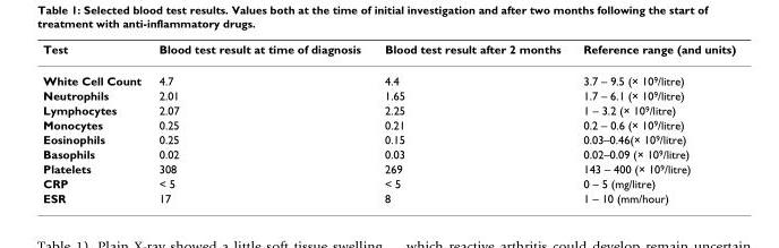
<table><thead><tr><td>Test</td><td>Blood test result at time of diagnosis</td><td>Blood test result after 2 months</td><td>Reference range (and units)</td></tr></thead><tbody><tr><td>White Cell Count</td><td>4.7</td><td>4.4</td><td>3.7 – 9.5 (× 10<sup>9</sup>/litre)</td></tr><tr><td>Neutrophils</td><td>2.01</td><td>1.65</td><td>1.7 – 6.1 (× 10<sup>9</sup>/litre)</td></tr><tr><td>Lymphocytes</td><td>2.07</td><td>2.25</td><td>1 – 3.2 (× 10<sup>9</sup>/litre)</td></tr><tr><td>Monocytes</td><td>0.25</td><td>0.21</td><td>0.2 – 0.6 (× 10<sup>9</sup>/litre)</td></tr><tr><td>Eosinophils</td><td>0.25</td><td>0.15</td><td>0.03–0.46(× 10<sup>9</sup>/litre)</td></tr><tr><td>Basophils</td><td>0.02</td><td>0.03</td><td>0.02–0.09 (× 10<sup>9</sup>/litre)</td></tr><tr><td>Platelets</td><td>308</td><td>269</td><td>143 – 400 (× 10<sup>9</sup>/litre)</td></tr><tr><td>CRP</td><td>&lt; 5</td><td>&lt; 5</td><td>0 – 5 (mg/litre)</td></tr><tr><td>ESR</td><td>17</td><td>8</td><td>1 – 10 (mm/hour)</td></tr></tbody></table>